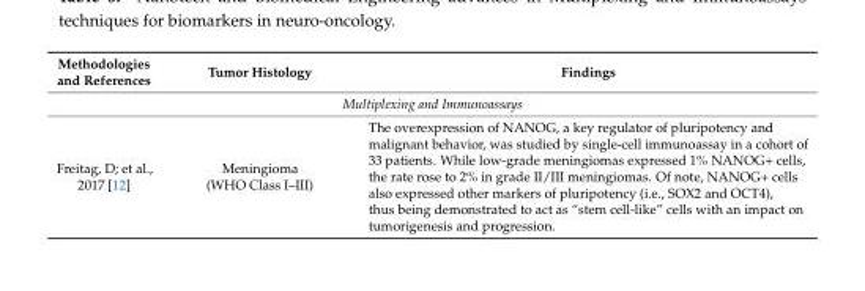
<table><thead><tr><td>Methodologies and References</td><td>Tumor Histology</td><td>Findings</td></tr></thead><tbody><tr><td colspan="3">Multiplexing and Immunoassays</td></tr><tr><td>Freitag, D; et al., 2017 [12]</td><td>Meningioma (WHO Class I–III)</td><td>The overexpression of NANOG, a key regulator of pluripotency and malignant behavior, was studied by single-cell immunoassay in a cohort of 33 patients. While low-grade meningiomas expressed 1% NANOG+ cells, the rate rose to 2% in grade II/III meningiomas. Of note, NANOG+ cells also expressed other markers of pluripotency (i.e., SOX2 and OCT4), thus being demonstrated to act as “stem cell-like” cells with an impact on tumorigenesis and progression.</td></tr></tbody></table>